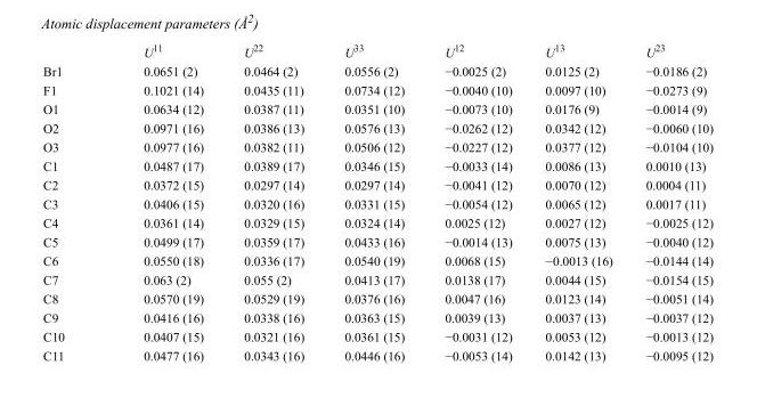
<table><thead><tr><td></td><td>U<sup>11</sup></td><td>U<sup>22</sup></td><td>U<sup>33</sup></td><td>U<sup>12</sup></td><td>U<sup>13</sup></td><td>U<sup>23</sup></td></tr></thead><tbody><tr><td>Br1</td><td>0.0651 (2)</td><td>0.0464 (2)</td><td>0.0556 (2)</td><td>−0.0025 (2)</td><td>0.0125 (2)</td><td>−0.0186 (2)</td></tr><tr><td>F1</td><td>0.1021 (14)</td><td>0.0435 (11)</td><td>0.0734 (12)</td><td>−0.0040 (10)</td><td>0.0097 (10)</td><td>−0.0273 (9)</td></tr><tr><td>O1</td><td>0.0634 (12)</td><td>0.0387 (11)</td><td>0.0351 (10)</td><td>−0.0073 (10)</td><td>0.0176 (9)</td><td>−0.0014 (9)</td></tr><tr><td>O2</td><td>0.0971 (16)</td><td>0.0386 (13)</td><td>0.0576 (13)</td><td>−0.0262 (12)</td><td>0.0342 (12)</td><td>−0.0060 (10)</td></tr><tr><td>O3</td><td>0.0977 (16)</td><td>0.0382 (11)</td><td>0.0506 (12)</td><td>−0.0227 (12)</td><td>0.0377 (12)</td><td>−0.0104 (10)</td></tr><tr><td>C1</td><td>0.0487 (17)</td><td>0.0389 (17)</td><td>0.0346 (15)</td><td>−0.0033 (14)</td><td>0.0086 (13)</td><td>0.0010 (13)</td></tr><tr><td>C2</td><td>0.0372 (15)</td><td>0.0297 (14)</td><td>0.0297 (14)</td><td>−0.0041 (12)</td><td>0.0070 (12)</td><td>0.0004 (11)</td></tr><tr><td>C3</td><td>0.0406 (15)</td><td>0.0320 (16)</td><td>0.0331 (15)</td><td>−0.0054 (12)</td><td>0.0065 (12)</td><td>0.0017 (11)</td></tr><tr><td>C4</td><td>0.0361 (14)</td><td>0.0329 (15)</td><td>0.0324 (14)</td><td>0.0025 (12)</td><td>0.0027 (12)</td><td>−0.0025 (12)</td></tr><tr><td>C5</td><td>0.0499 (17)</td><td>0.0359 (17)</td><td>0.0433 (16)</td><td>−0.0014 (13)</td><td>0.0075 (13)</td><td>−0.0040 (12)</td></tr><tr><td>C6</td><td>0.0550 (18)</td><td>0.0336 (17)</td><td>0.0540 (19)</td><td>0.0068 (15)</td><td>−0.0013 (16)</td><td>−0.0144 (14)</td></tr><tr><td>C7</td><td>0.063 (2)</td><td>0.055 (2)</td><td>0.0413 (17)</td><td>0.0138 (17)</td><td>0.0044 (15)</td><td>−0.0154 (15)</td></tr><tr><td>C8</td><td>0.0570 (19)</td><td>0.0529 (19)</td><td>0.0376 (16)</td><td>0.0047 (16)</td><td>0.0123 (14)</td><td>−0.0051 (14)</td></tr><tr><td>C9</td><td>0.0416 (16)</td><td>0.0338 (16)</td><td>0.0363 (15)</td><td>0.0039 (13)</td><td>0.0037 (13)</td><td>−0.0037 (12)</td></tr><tr><td>C10</td><td>0.0407 (15)</td><td>0.0321 (16)</td><td>0.0361 (15)</td><td>−0.0031 (12)</td><td>0.0053 (12)</td><td>−0.0013 (12)</td></tr><tr><td>C11</td><td>0.0477 (16)</td><td>0.0343 (16)</td><td>0.0446 (16)</td><td>−0.0053 (14)</td><td>0.0142 (13)</td><td>−0.0095 (12)</td></tr></tbody></table>